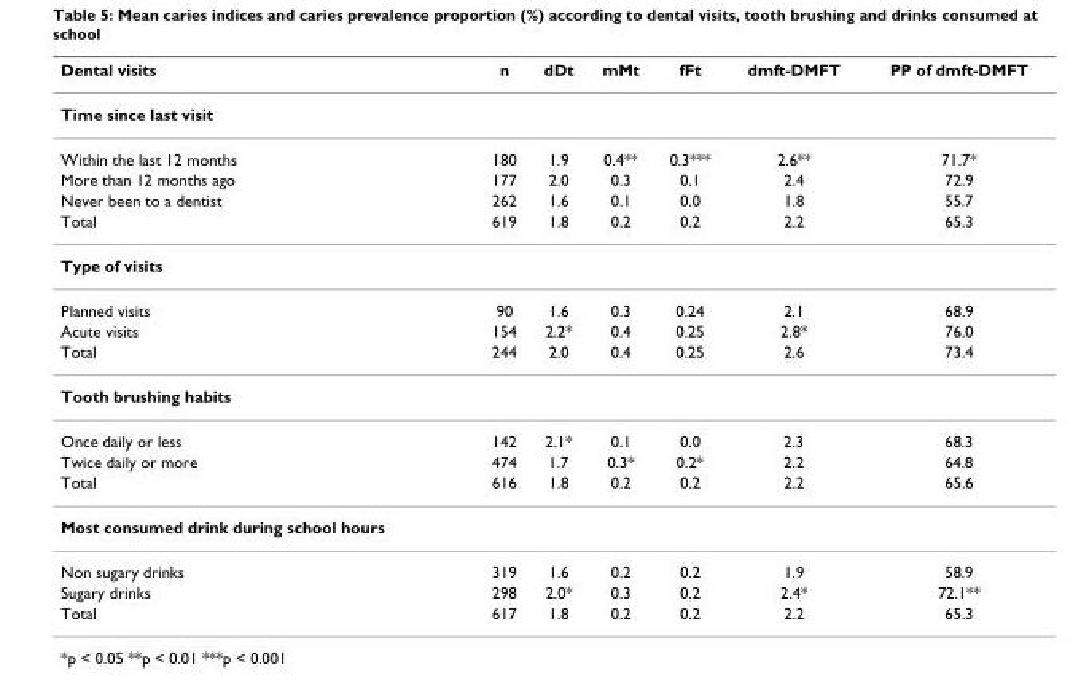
<table><thead><tr><td>Dental visits</td><td>n</td><td>dDt</td><td>mMt</td><td>fFt</td><td>dmft-DMFT</td><td>PP of dmft-DMFT</td></tr></thead><tbody><tr><td colspan="7">Time since last visit</td></tr><tr><td>Within the last 12 months</td><td>180</td><td>1.9</td><td>0.4**</td><td>0.3***</td><td>2.6**</td><td>71.7*</td></tr><tr><td>More than 12 months ago</td><td>177</td><td>2.0</td><td>0.3</td><td>0.1</td><td>2.4</td><td>72.9</td></tr><tr><td>Never been to a dentist</td><td>262</td><td>1.6</td><td>0.1</td><td>0.0</td><td>1.8</td><td>55.7</td></tr><tr><td>Total</td><td>619</td><td>1.8</td><td>0.2</td><td>0.2</td><td>2.2</td><td>65.3</td></tr><tr><td colspan="7">Type of visits</td></tr><tr><td>Planned visits</td><td>90</td><td>1.6</td><td>0.3</td><td>0.24</td><td>2.1</td><td>68.9</td></tr><tr><td>Acute visits</td><td>154</td><td>2.2*</td><td>0.4</td><td>0.25</td><td>2.8*</td><td>76.0</td></tr><tr><td>Total</td><td>244</td><td>2.0</td><td>0.4</td><td>0.25</td><td>2.6</td><td>73.4</td></tr><tr><td colspan="7">Tooth brushing habits</td></tr><tr><td>Once daily or less</td><td>142</td><td>2.1*</td><td>0.1</td><td>0.0</td><td>2.3</td><td>68.3</td></tr><tr><td>Twice daily or more</td><td>474</td><td>1.7</td><td>0.3*</td><td>0.2*</td><td>2.2</td><td>64.8</td></tr><tr><td>Total</td><td>616</td><td>1.8</td><td>0.2</td><td>0.2</td><td>2.2</td><td>65.6</td></tr><tr><td colspan="7">Most consumed drink during school hours</td></tr><tr><td>Non sugary drinks</td><td>319</td><td>1.6</td><td>0.2</td><td>0.2</td><td>1.9</td><td>58.9</td></tr><tr><td>Sugary drinks</td><td>298</td><td>2.0*</td><td>0.3</td><td>0.2</td><td>2.4*</td><td>72.1**</td></tr><tr><td>Total</td><td>617</td><td>1.8</td><td>0.2</td><td>0.2</td><td>2.2</td><td>65.3</td></tr></tbody></table>